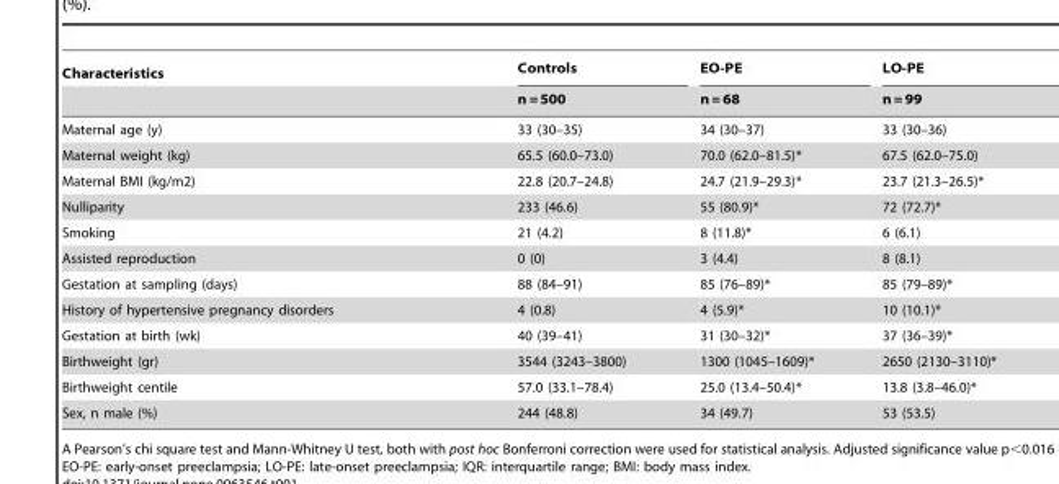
<table><thead><tr><td rowspan="2">Characteristics</td><td rowspan="2">Controls n = 500</td><td rowspan="2">EO-PE n = 68</td><td rowspan="2">LO-PE n = 99</td></tr><tr></tr></thead><tbody><tr><td>Maternal age (y)</td><td>33 (30–35)</td><td>34 (30–37)</td><td>33 (30–36)</td></tr><tr><td>Maternal weight (kg)</td><td>65.5 (60.0–73.0)</td><td>70.0 (62.0–81.5)*</td><td>67.5 (62.0–75.0)</td></tr><tr><td>Maternal BMI (kg/m2)</td><td>22.8 (20.7–24.8)</td><td>24.7 (21.9–29.3)*</td><td>23.7 (21.3–26.5)*</td></tr><tr><td>Nulliparity</td><td>233 (46.6)</td><td>55 (80.9)*</td><td>72 (72.7)*</td></tr><tr><td>Smoking</td><td>21 (4.2)</td><td>8 (11.8)*</td><td>6 (6.1)</td></tr><tr><td>Assisted reproduction</td><td>0 (0)</td><td>3 (4.4)</td><td>8 (8.1)</td></tr><tr><td>Gestation at sampling (days)</td><td>88 (84–91)</td><td>85 (76–89)*</td><td>85 (79–89)*</td></tr><tr><td>History of hypertensive pregnancy disorders</td><td>4 (0.8)</td><td>4 (5.9)*</td><td>10 (10.1)*</td></tr><tr><td>Gestation at birth (wk)</td><td>40 (39–41)</td><td>31 (30–32)*</td><td>37 (36–39)*</td></tr><tr><td>Birthweight (gr)</td><td>3544 (3243–3800)</td><td>1300 (1045–1609)*</td><td>2650 (2130–3110)*</td></tr><tr><td>Birthweight centile</td><td>57.0 (33.1–78.4)</td><td>25.0 (13.4–50.4)*</td><td>13.8 (3.8–46.0)*</td></tr><tr><td>Sex, n male (%)</td><td>244 (48.8)</td><td>34 (49.7)</td><td>53 (53.5)</td></tr></tbody></table>